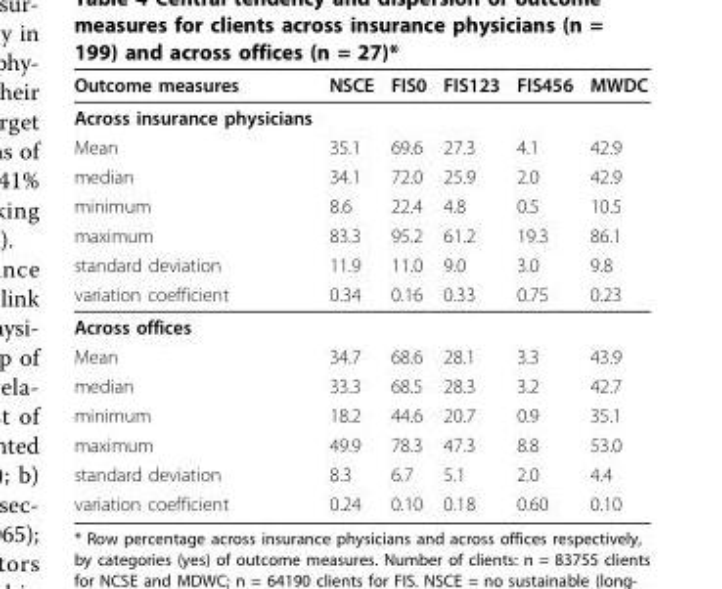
<table><thead><tr><td>Outcome measures</td><td>NSCE</td><td>FIS0</td><td>FIS123</td><td>FIS456</td><td>MWDC</td></tr></thead><tbody><tr><td colspan="6">Across insurance physicians</td></tr><tr><td>Mean</td><td>35.1</td><td>69.6</td><td>27.3</td><td>4.1</td><td>42.9</td></tr><tr><td>median</td><td>34.1</td><td>72.0</td><td>25.9</td><td>2.0</td><td>42.9</td></tr><tr><td>minimum</td><td>8.6</td><td>22.4</td><td>4.8</td><td>0.5</td><td>10.5</td></tr><tr><td>maximum</td><td>83.3</td><td>95.2</td><td>61.2</td><td>19.3</td><td>86.1</td></tr><tr><td>standard deviation</td><td>11.9</td><td>11.0</td><td>9.0</td><td>3.0</td><td>9.8</td></tr><tr><td>variation coefficient</td><td>0.34</td><td>0.16</td><td>0.33</td><td>0.75</td><td>0.23</td></tr><tr><td colspan="6">Across offices</td></tr><tr><td>Mean</td><td>34.7</td><td>68.6</td><td>28.1</td><td>3.3</td><td>43.9</td></tr><tr><td>median</td><td>33.3</td><td>68.5</td><td>28.3</td><td>3.2</td><td>42.7</td></tr><tr><td>minimum</td><td>18.2</td><td>44.6</td><td>20.7</td><td>0.9</td><td>35.1</td></tr><tr><td>maximum</td><td>49.9</td><td>78.3</td><td>47.3</td><td>8.8</td><td>53.0</td></tr><tr><td>standard deviation</td><td>8.3</td><td>6.7</td><td>5.1</td><td>2.0</td><td>4.4</td></tr><tr><td>variation coefficient</td><td>0.24</td><td>0.10</td><td>0.18</td><td>0.60</td><td>0.10</td></tr></tbody></table>